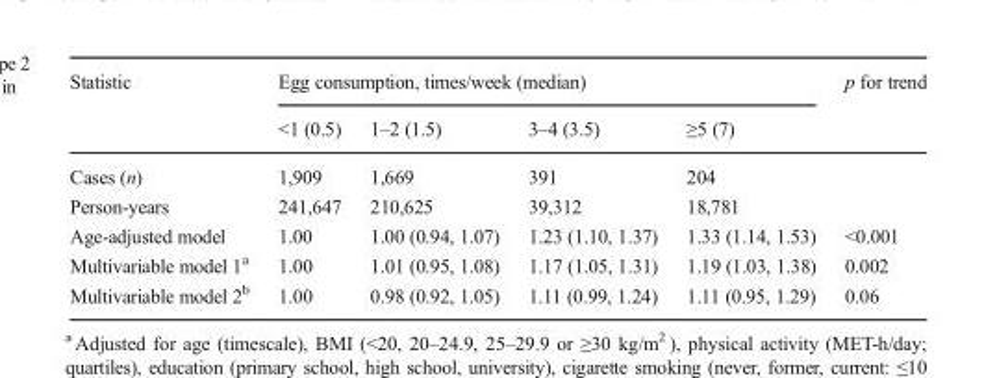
<table><thead><tr><td rowspan="2">Statistic</td><td colspan="4">Egg consumption, times/week (median)</td><td rowspan="2">p for trend</td></tr><tr><td>&lt;1 (0.5)</td><td>1–2 (1.5)</td><td>3–4 (3.5)</td><td>≥5 (7)</td></tr></thead><tbody><tr><td>Cases (n)</td><td>1,909</td><td>1,669</td><td>391</td><td>204</td><td></td></tr><tr><td>Person-years</td><td>241,647</td><td>210,625</td><td>39,312</td><td>18,781</td><td></td></tr><tr><td>Age-adjusted model</td><td>1.00</td><td>1.00 (0.94, 1.07)</td><td>1.23 (1.10, 1.37)</td><td>1.33 (1.14, 1.53)</td><td>&lt;0.001</td></tr><tr><td>Multivariable model 1<sup>a</sup></td><td>1.00</td><td>1.01 (0.95, 1.08)</td><td>1.17 (1.05, 1.31)</td><td>1.19 (1.03, 1.38)</td><td>0.002</td></tr><tr><td>Multivariable model 2<sup>b</sup></td><td>1.00</td><td>0.98 (0.92, 1.05)</td><td>1.11 (0.99, 1.24)</td><td>1.11 (0.95, 1.29)</td><td>0.06</td></tr></tbody></table>